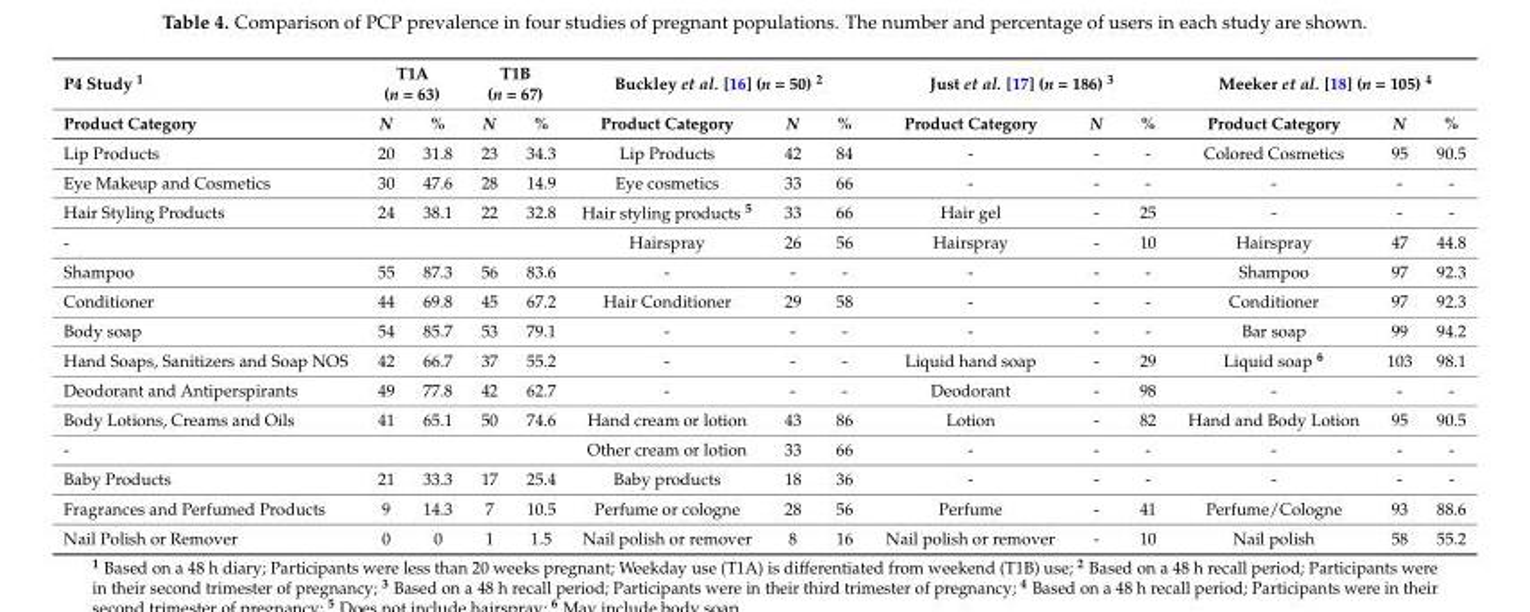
<table><thead><tr><td rowspan="2">P4 Study <sup>1</sup> Product Category</td><td colspan="2">T1A (n = 63)</td><td colspan="2">T1B (n = 67)</td><td colspan="3">Buckley et al. [16] (n = 50) <sup>2</sup></td><td colspan="3">Just et al. [17] (n = 186) <sup>3</sup></td><td colspan="3">Meeker et al. [18] (n = 105) <sup>4</sup></td></tr><tr><td>N</td><td>%</td><td>N</td><td>%</td><td>Product Category</td><td>N</td><td>%</td><td>Product Category</td><td>N</td><td>%</td><td>Product Category</td><td>N</td><td>%</td></tr></thead><tbody><tr><td>Lip Products</td><td>20</td><td>31.8</td><td>23</td><td>34.3</td><td>Lip Products</td><td>42</td><td>84</td><td>-</td><td>-</td><td>-</td><td>Colored Cosmetics</td><td>95</td><td>90.5</td></tr><tr><td>Eye Makeup and Cosmetics</td><td>30</td><td>47.6</td><td>28</td><td>14.9</td><td>Eye cosmetics</td><td>33</td><td>66</td><td>-</td><td>-</td><td>-</td><td>-</td><td>-</td><td>-</td></tr><tr><td>Hair Styling Products</td><td>24</td><td>38.1</td><td>22</td><td>32.8</td><td>Hair styling products <sup>5</sup></td><td>33</td><td>66</td><td>Hair gel</td><td>-</td><td>25</td><td>-</td><td>-</td><td>-</td></tr><tr><td>-</td><td></td><td></td><td></td><td></td><td>Hairspray</td><td>26</td><td>56</td><td>Hairspray</td><td>-</td><td>10</td><td>Hairspray</td><td>47</td><td>44.8</td></tr><tr><td>Shampoo</td><td>55</td><td>87.3</td><td>56</td><td>83.6</td><td>-</td><td>-</td><td>-</td><td>-</td><td>-</td><td>-</td><td>Shampoo</td><td>97</td><td>92.3</td></tr><tr><td>Conditioner</td><td>44</td><td>69.8</td><td>45</td><td>67.2</td><td>Hair Conditioner</td><td>29</td><td>58</td><td>-</td><td>-</td><td>-</td><td>Conditioner</td><td>97</td><td>92.3</td></tr><tr><td>Body soap</td><td>54</td><td>85.7</td><td>53</td><td>79.1</td><td>-</td><td>-</td><td>-</td><td>-</td><td>-</td><td>-</td><td>Bar soap</td><td>99</td><td>94.2</td></tr><tr><td>Hand Soaps, Sanitizers and Soap NOS</td><td>42</td><td>66.7</td><td>37</td><td>55.2</td><td>-</td><td>-</td><td>-</td><td>Liquid hand soap</td><td>-</td><td>29</td><td>Liquid soap <sup>6</sup></td><td>103</td><td>98.1</td></tr><tr><td>Deodorant and Antiperspirants</td><td>49</td><td>77.8</td><td>42</td><td>62.7</td><td>-</td><td>-</td><td>-</td><td>Deodorant</td><td>-</td><td>98</td><td>-</td><td>-</td><td>-</td></tr><tr><td>Body Lotions, Creams and Oils</td><td>41</td><td>65.1</td><td>50</td><td>74.6</td><td>Hand cream or lotion</td><td>43</td><td>86</td><td>Lotion</td><td>-</td><td>82</td><td>Hand and Body Lotion</td><td>95</td><td>90.5</td></tr><tr><td>-</td><td></td><td></td><td></td><td></td><td>Other cream or lotion</td><td>33</td><td>66</td><td>-</td><td>-</td><td>-</td><td>-</td><td>-</td><td>-</td></tr><tr><td>Baby Products</td><td>21</td><td>33.3</td><td>17</td><td>25.4</td><td>Baby products</td><td>18</td><td>36</td><td>-</td><td>-</td><td>-</td><td>-</td><td>-</td><td>-</td></tr><tr><td>Fragrances and Perfumed Products</td><td>9</td><td>14.3</td><td>7</td><td>10.5</td><td>Perfume or cologne</td><td>28</td><td>56</td><td>Perfume</td><td>-</td><td>41</td><td>Perfume/Cologne</td><td>93</td><td>88.6</td></tr><tr><td>Nail Polish or Remover</td><td>0</td><td>0</td><td>1</td><td>1.5</td><td>Nail polish or remover</td><td>8</td><td>16</td><td>Nail polish or remover</td><td>-</td><td>10</td><td>Nail polish</td><td>58</td><td>55.2</td></tr></tbody></table>